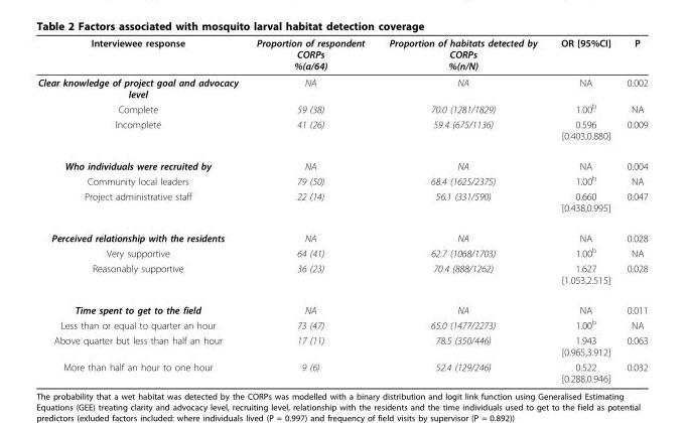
<table><tbody><tr><td>Interviewee response</td><td>Proportion of respondent CORPs %(a/64)</td><td>Proportion of habitats detected by CORPs %(n/N)</td><td>OR [95%CI]</td><td>P</td></tr><tr><td>Clear knowledge of project goal and advocacy level</td><td>NA</td><td>NA</td><td>NA</td><td>0.002</td></tr><tr><td>Complete</td><td>59 (38)</td><td>70.0 (1281/1829)</td><td>1.00<sup>b</sup></td><td>NA</td></tr><tr><td>Incomplete</td><td>41 (26)</td><td>59.4 (675/1136)</td><td>0.596 [0.403,0.880]</td><td>0.009</td></tr><tr><td>Who individuals were recruited by</td><td>NA</td><td>NA</td><td>NA</td><td>0.004</td></tr><tr><td>Community local leaders</td><td>79 (50)</td><td>68.4 (1625/2375)</td><td>1.00<sup>b</sup></td><td>NA</td></tr><tr><td>Project administrative staff</td><td>22 (14)</td><td>56.1 (331/590)</td><td>0.660 [0.438,0.995]</td><td>0.047</td></tr><tr><td>Perceived relationship with the residents</td><td>NA</td><td>NA</td><td>NA</td><td>0.028</td></tr><tr><td>Very supportive</td><td>64 (41)</td><td>62.7 (1068/1703)</td><td>1.00<sup>b</sup></td><td>NA</td></tr><tr><td>Reasonably supportive</td><td>36 (23)</td><td>70.4 (888/1262)</td><td>1.627 [1.053,2.515]</td><td>0.028</td></tr><tr><td>Time spent to get to the field</td><td>NA</td><td>NA</td><td>NA</td><td>0.011</td></tr><tr><td>Less than or equal to quarter an hour</td><td>73 (47)</td><td>65.0 (1477/2273)</td><td>1.00<sup>b</sup></td><td>NA</td></tr><tr><td>Above quarter but less than half an hour</td><td>17 (11)</td><td>78.5 (350/446)</td><td>1.943 [0.965,3.912]</td><td>0.063</td></tr><tr><td>More than half an hour to one hour</td><td>9 (6)</td><td>52.4 (129/246)</td><td>0.522 [0.288,0.946]</td><td>0.032</td></tr></tbody></table>